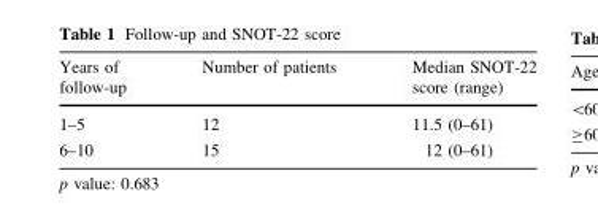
<table><thead><tr><td>Years of follow-up</td><td>Number of patients</td><td>Median SNOT-22 score (range)</td></tr></thead><tbody><tr><td>1–5</td><td>12</td><td>11.5 (0–61)</td></tr><tr><td>6–10</td><td>15</td><td>12 (0–61)</td></tr></tbody></table>